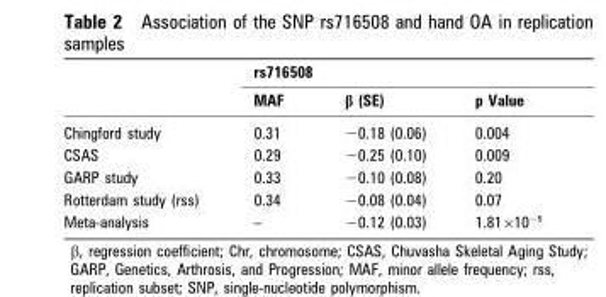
<table><thead><tr><td rowspan="2"></td><td colspan="3">rs716508</td></tr><tr><td>MAF</td><td>β (SE)</td><td>p Value</td></tr></thead><tbody><tr><td>Chingford study</td><td>0.31</td><td>−0.18 (0.06)</td><td>0.004</td></tr><tr><td>CSAS</td><td>0.29</td><td>−0.25 (0.10)</td><td>0.009</td></tr><tr><td>GARP study</td><td>0.33</td><td>−0.10 (0.08)</td><td>0.20</td></tr><tr><td>Rotterdam study (rss)</td><td>0.34</td><td>−0.08 (0.04)</td><td>0.07</td></tr><tr><td>Meta-analysis</td><td>–</td><td>−0.12 (0.03)</td><td>1.81×10<sup>−5</sup></td></tr></tbody></table>